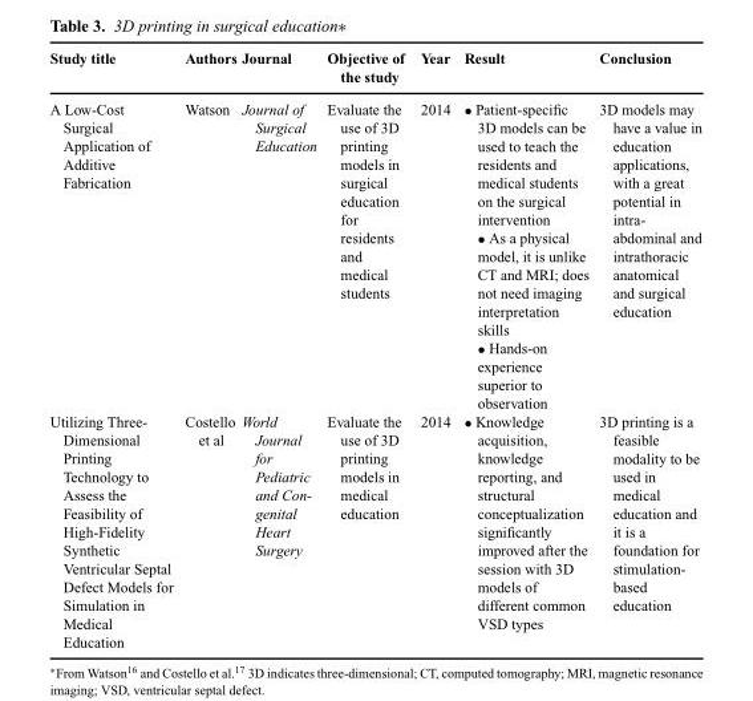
<table><thead><tr><td>Study title</td><td>Authors</td><td>Journal</td><td>Objective of the study</td><td>Year</td><td>Result</td><td>Conclusion</td></tr></thead><tbody><tr><td>A Low-Cost Surgical Application of Additive Fabrication</td><td>Watson</td><td>Journal of Surgical Education</td><td>Evaluate the use of 3D printing models in surgical education for residents and medical students</td><td>2014</td><td>• Patient-specific 3D models can be used to teach the residents and medical students on the surgical intervention • As a physical model, it is unlike CT and MRI; does not need imaging interpretation skills • Hands-on experience superior to observation</td><td>3D models may have a value in education applications, with a great potential in intra- abdominal and intrathoracic anatomical and surgical education</td></tr><tr><td>Utilizing Three- Dimensional Printing Technology to Assess the Feasibility of High-Fidelity Synthetic Ventricular Septal Defect Models for Simulation in Medical Education</td><td>Costello et al</td><td>World Journal for Pediatric and Con- genital Heart Surgery</td><td>Evaluate the use of 3D printing models in medical education</td><td>2014</td><td>• Knowledge acquisition, knowledge reporting, and structural conceptualization significantly improved after the session with 3D models of different common VSD types</td><td>3D printing is a feasible modality to be used in medical education and it is a foundation for stimulation- based education</td></tr></tbody></table>